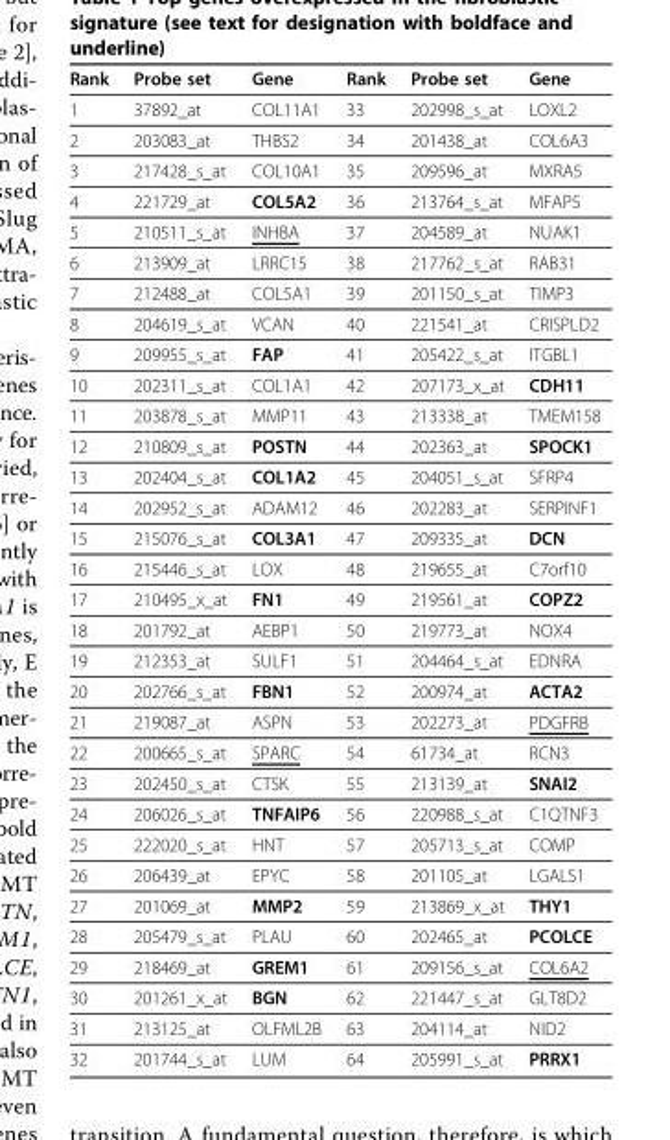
<table><thead><tr><td>Rank</td><td>Probe set</td><td>Gene</td><td>Rank</td><td>Probe set</td><td>Gene</td></tr></thead><tbody><tr><td>1</td><td>37892_at</td><td>COL11A1</td><td>33</td><td>202998_s_at</td><td>LOXL2</td></tr><tr><td>2</td><td>203083_at</td><td>THBS2</td><td>34</td><td>201438_at</td><td>COL6A3</td></tr><tr><td>3</td><td>217428_s_at</td><td>COL10A1</td><td>35</td><td>209596_at</td><td>MXRA5</td></tr><tr><td>4</td><td>221729_at</td><td>COL5A2</td><td>36</td><td>213764_s_at</td><td>MFAP5</td></tr><tr><td>5</td><td>210511_s_at</td><td>INHBA</td><td>37</td><td>204589_at</td><td>NUAK1</td></tr><tr><td>6</td><td>213909_at</td><td>LRRC15</td><td>38</td><td>217762_s_at</td><td>RAB31</td></tr><tr><td>7</td><td>212488_at</td><td>COL5A1</td><td>39</td><td>201150_s_at</td><td>TIMP3</td></tr><tr><td>8</td><td>204619_s_at</td><td>VCAN</td><td>40</td><td>221541_at</td><td>CRISPLD2</td></tr><tr><td>9</td><td>209955_s_at</td><td>FAP</td><td>41</td><td>205422_s_at</td><td>ITGBL1</td></tr><tr><td>10</td><td>202311_s_at</td><td>COL1A1</td><td>42</td><td>207173_x_at</td><td>CDH11</td></tr><tr><td>11</td><td>203878_s_at</td><td>MMP11</td><td>43</td><td>213338_at</td><td>TMEM158</td></tr><tr><td>12</td><td>210809_s_at</td><td>POSTN</td><td>44</td><td>202363_at</td><td>SPOCK1</td></tr><tr><td>13</td><td>202404_s_at</td><td>COL1A2</td><td>45</td><td>204051_s_at</td><td>SFRP4</td></tr><tr><td>14</td><td>202952_s_at</td><td>ADAM12</td><td>46</td><td>202283_at</td><td>SERPINF1</td></tr><tr><td>15</td><td>215076_s_at</td><td>COL3A1</td><td>47</td><td>209335_at</td><td>DCN</td></tr><tr><td>16</td><td>215446_s_at</td><td>LOX</td><td>48</td><td>219655_at</td><td>C7orf10</td></tr><tr><td>17</td><td>210495_x_at</td><td>FN1</td><td>49</td><td>219561_at</td><td>COPZ2</td></tr><tr><td>18</td><td>201792_at</td><td>AEBP1</td><td>50</td><td>219773_at</td><td>NOX4</td></tr><tr><td>19</td><td>212353_at</td><td>SULF1</td><td>51</td><td>204464_s_at</td><td>EDNRA</td></tr><tr><td>20</td><td>202766_s_at</td><td>FBN1</td><td>52</td><td>200974_at</td><td>ACTA2</td></tr><tr><td>21</td><td>219087_at</td><td>ASPN</td><td>53</td><td>202273_at</td><td>PDGFRB</td></tr><tr><td>22</td><td>200665_s_at</td><td>SPARC</td><td>54</td><td>61734_at</td><td>RCN3</td></tr><tr><td>23</td><td>202450_s_at</td><td>CTSK</td><td>55</td><td>213139_at</td><td>SNAI2</td></tr><tr><td>24</td><td>206026_s_at</td><td>TNFAIP6</td><td>56</td><td>220988_s_at</td><td>C1QTNF3</td></tr><tr><td>25</td><td>222020_s_at</td><td>HNT</td><td>57</td><td>205713_s_at</td><td>COMP</td></tr><tr><td>26</td><td>206439_at</td><td>EPYC</td><td>58</td><td>201105_at</td><td>LGALS1</td></tr><tr><td>27</td><td>201069_at</td><td>MMP2</td><td>59</td><td>213869_x_at</td><td>THY1</td></tr><tr><td>28</td><td>205479_s_at</td><td>PLAU</td><td>60</td><td>202465_at</td><td>PCOLCE</td></tr><tr><td>29</td><td>218469_at</td><td>GREM1</td><td>61</td><td>209156_s_at</td><td>COL6A2</td></tr><tr><td>30</td><td>201261_x_at</td><td>BGN</td><td>62</td><td>221447_s_at</td><td>GLT8D2</td></tr><tr><td>31</td><td>213125_at</td><td>OLFML2B</td><td>63</td><td>204114_at</td><td>NID2</td></tr><tr><td>32</td><td>201744_s_at</td><td>LUM</td><td>64</td><td>205991_s_at</td><td>PRRX1</td></tr></tbody></table>